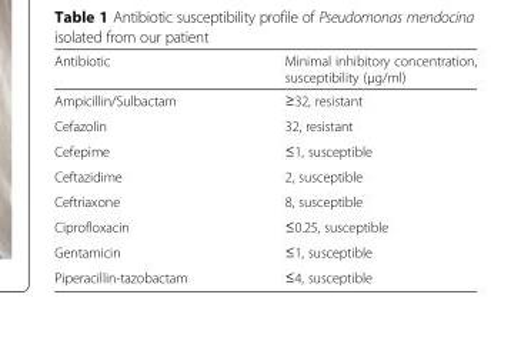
<table><thead><tr><td>Antibiotic</td><td>Minimal inhibitory concentration, susceptibility (μg/ml)</td></tr></thead><tbody><tr><td>Ampicillin/Sulbactam</td><td>≥32, resistant</td></tr><tr><td>Cefazolin</td><td>32, resistant</td></tr><tr><td>Cefepime</td><td>≤1, susceptible</td></tr><tr><td>Ceftazidime</td><td>2, susceptible</td></tr><tr><td>Ceftriaxone</td><td>8, susceptible</td></tr><tr><td>Ciprofloxacin</td><td>≤0.25, susceptible</td></tr><tr><td>Gentamicin</td><td>≤1, susceptible</td></tr><tr><td>Piperacillin-tazobactam</td><td>≤4, susceptible</td></tr></tbody></table>